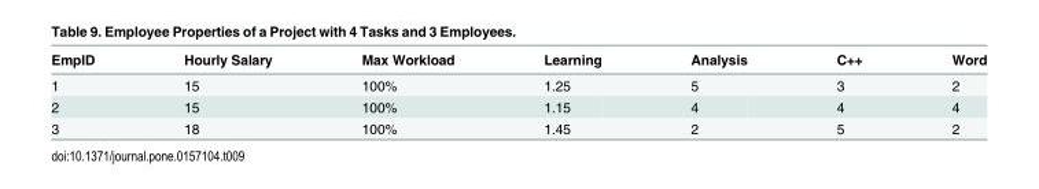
<table><thead><tr><td>EmpID</td><td>Hourly Salary</td><td>Max Workload</td><td>Learning</td><td>Analysis</td><td>C++</td><td>Word</td></tr></thead><tbody><tr><td>1</td><td>15</td><td>100%</td><td>1.25</td><td>5</td><td>3</td><td>2</td></tr><tr><td>2</td><td>15</td><td>100%</td><td>1.15</td><td>4</td><td>4</td><td>4</td></tr><tr><td>3</td><td>18</td><td>100%</td><td>1.45</td><td>2</td><td>5</td><td>2</td></tr></tbody></table>